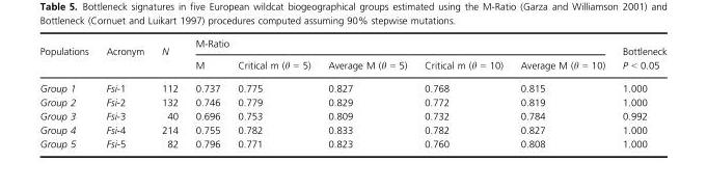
<table><thead><tr><td rowspan="2">Populations</td><td rowspan="2">Acronym</td><td rowspan="2">N</td><td colspan="5">M-Ratio</td><td rowspan="2">Bottleneck P &lt; 0.05</td></tr><tr><td>M</td><td>Critical m (θ = 5)</td><td>Average M (θ = 5)</td><td>Critical m (θ = 10)</td><td>Average M (θ = 10)</td></tr></thead><tbody><tr><td>Group 1</td><td>Fsi-1</td><td>112</td><td>0.737</td><td>0.775</td><td>0.827</td><td>0.768</td><td>0.815</td><td>1.000</td></tr><tr><td>Group 2</td><td>Fsi-2</td><td>132</td><td>0.746</td><td>0.779</td><td>0.829</td><td>0.772</td><td>0.819</td><td>1.000</td></tr><tr><td>Group 3</td><td>Fsi-3</td><td>40</td><td>0.696</td><td>0.753</td><td>0.809</td><td>0.732</td><td>0.784</td><td>0.992</td></tr><tr><td>Group 4</td><td>Fsi-4</td><td>214</td><td>0.755</td><td>0.782</td><td>0.833</td><td>0.782</td><td>0.827</td><td>1.000</td></tr><tr><td>Group 5</td><td>Fsi-5</td><td>82</td><td>0.796</td><td>0.771</td><td>0.823</td><td>0.760</td><td>0.808</td><td>1.000</td></tr></tbody></table>